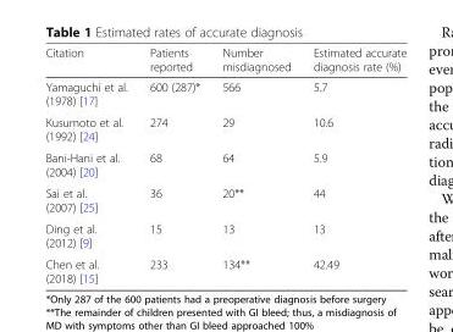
<table><thead><tr><td>Citation</td><td>Patients reported</td><td>Number misdiagnosed</td><td>Estimated accurate diagnosis rate (%)</td></tr></thead><tbody><tr><td>Yamaguchi et al. (1978) [17]</td><td>600 (287)*</td><td>566</td><td>5.7</td></tr><tr><td>Kusumoto et al. (1992) [24]</td><td>274</td><td>29</td><td>10.6</td></tr><tr><td>Bani-Hani et al. (2004) [20]</td><td>68</td><td>64</td><td>5.9</td></tr><tr><td>Sai et al. (2007) [25]</td><td>36</td><td>20**</td><td>44</td></tr><tr><td>Ding et al. (2012) [9]</td><td>15</td><td>13</td><td>13</td></tr><tr><td>Chen et al. (2018) [15]</td><td>233</td><td>134**</td><td>42.49</td></tr></tbody></table>